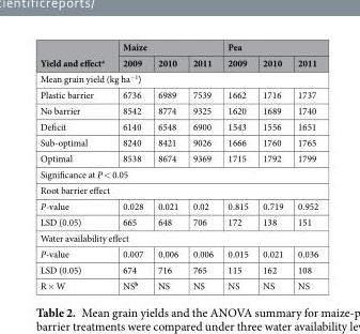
<table><thead><tr><td rowspan="2">Yield and effect<sup>a</sup></td><td colspan="3">Maize</td><td colspan="3">Pea</td></tr><tr><td>2009</td><td>2010</td><td>2011</td><td>2009</td><td>2010</td><td>2011</td></tr></thead><tbody><tr><td colspan="7">Mean grain yield (kg ha<sup>−1</sup>)</td></tr><tr><td>Plastic barrier</td><td>6736</td><td>6989</td><td>7539</td><td>1662</td><td>1716</td><td>1737</td></tr><tr><td>No barrier</td><td>8542</td><td>8774</td><td>9325</td><td>1620</td><td>1689</td><td>1740</td></tr><tr><td>Deficit</td><td>6140</td><td>6548</td><td>6900</td><td>1543</td><td>1556</td><td>1651</td></tr><tr><td>Sub-optimal</td><td>8240</td><td>8421</td><td>9026</td><td>1666</td><td>1760</td><td>1765</td></tr><tr><td>Optimal</td><td>8538</td><td>8674</td><td>9369</td><td>1715</td><td>1792</td><td>1799</td></tr><tr><td colspan="7">Significance at P &lt; 0.05</td></tr><tr><td colspan="7">Root barrier effect</td></tr><tr><td>P-value</td><td>0.028</td><td>0.021</td><td>0.02</td><td>0.815</td><td>0.719</td><td>0.952</td></tr><tr><td>LSD (0.05)</td><td>665</td><td>648</td><td>706</td><td>172</td><td>138</td><td>151</td></tr><tr><td colspan="7">Water availability effect</td></tr><tr><td>P-value</td><td>0.007</td><td>0.006</td><td>0.006</td><td>0.015</td><td>0.021</td><td>0.036</td></tr><tr><td>LSD (0.05)</td><td>674</td><td>716</td><td>765</td><td>115</td><td>162</td><td>108</td></tr><tr><td>R × W</td><td>NS<sup>b</sup></td><td>NS</td><td>NS</td><td>NS</td><td>NS</td><td>NS</td></tr></tbody></table>